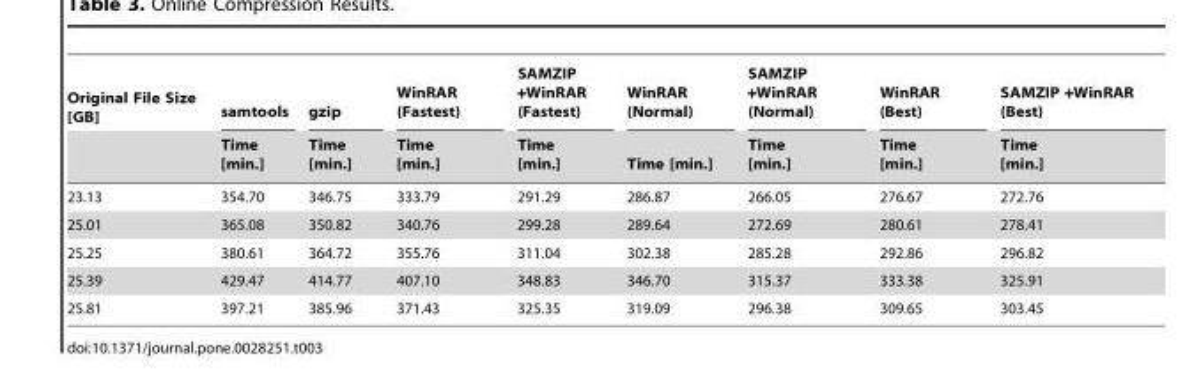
<table><thead><tr><td rowspan="2">Original File Size [GB]</td><td rowspan="2">samtools Time [min.]</td><td rowspan="2">gzip Time [min.]</td><td rowspan="2">WinRAR (Fastest) Time [min.]</td><td rowspan="2">SAMZIP +WinRAR (Fastest) Time [min.]</td><td rowspan="2">WinRAR (Normal) Time [min.]</td><td rowspan="2">SAMZIP +WinRAR (Normal) Time [min.]</td><td rowspan="2">WinRAR (Best) Time [min.]</td><td rowspan="2">SAMZIP +WinRAR (Best) Time [min.]</td></tr><tr></tr></thead><tbody><tr><td>23.13</td><td>354.70</td><td>346.75</td><td>333.79</td><td>291.29</td><td>286.87</td><td>266.05</td><td>276.67</td><td>272.76</td></tr><tr><td>25.01</td><td>365.08</td><td>350.82</td><td>340.76</td><td>299.28</td><td>289.64</td><td>272.69</td><td>280.61</td><td>278.41</td></tr><tr><td>25.25</td><td>380.61</td><td>364.72</td><td>355.76</td><td>311.04</td><td>302.38</td><td>285.28</td><td>292.86</td><td>296.82</td></tr><tr><td>25.39</td><td>429.47</td><td>414.77</td><td>407.10</td><td>348.83</td><td>346.70</td><td>315.37</td><td>333.38</td><td>325.91</td></tr><tr><td>25.81</td><td>397.21</td><td>385.96</td><td>371.43</td><td>325.35</td><td>319.09</td><td>296.38</td><td>309.65</td><td>303.45</td></tr></tbody></table>